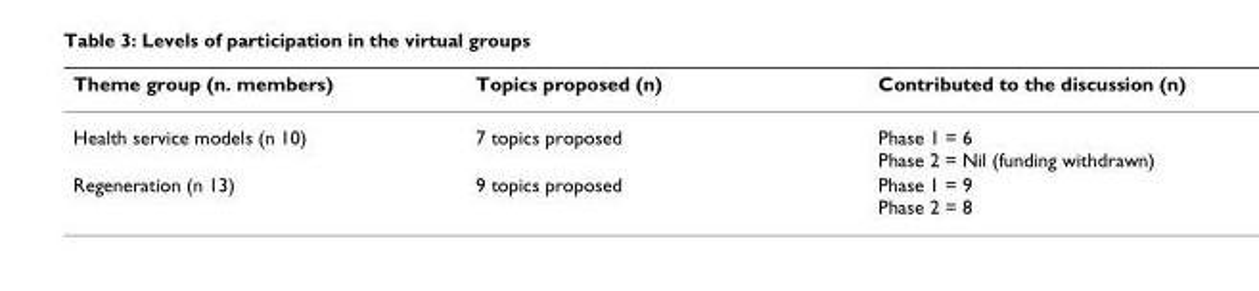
<table><thead><tr><td>Theme group (n. members)</td><td>Topics proposed (n)</td><td>Contributed to the discussion (n)</td></tr></thead><tbody><tr><td>Health service models (n 10)</td><td>7 topics proposed</td><td>Phase 1 = 6 Phase 2 = Nil (funding withdrawn)</td></tr><tr><td>Regeneration (n 13)</td><td>9 topics proposed</td><td>Phase 1 = 9 Phase 2 = 8</td></tr></tbody></table>